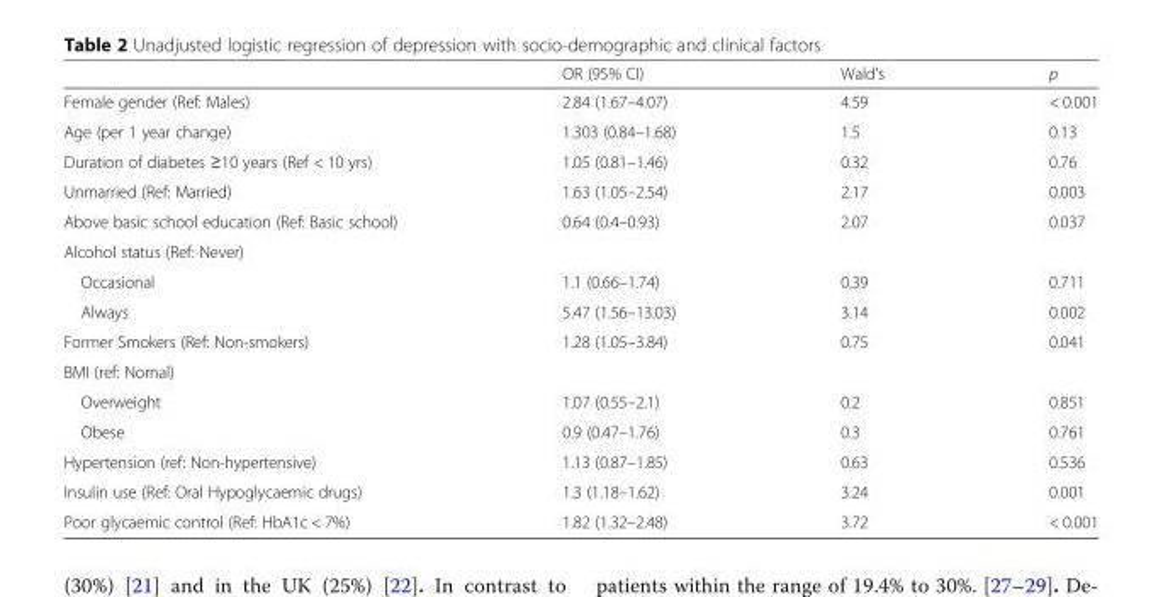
<table><thead><tr><td></td><td>OR (95% CI)</td><td>Wald’s</td><td>p</td></tr></thead><tbody><tr><td>Female gender (Ref: Males)</td><td>2.84 (1.67–4.07)</td><td>4.59</td><td>&lt; 0.001</td></tr><tr><td>Age (per 1 year change)</td><td>1.303 (0.84–1.68)</td><td>1.5</td><td>0.13</td></tr><tr><td>Duration of diabetes ≥10 years (Ref &lt; 10 yrs)</td><td>1.05 (0.81–1.46)</td><td>0.32</td><td>0.76</td></tr><tr><td>Unmarried (Ref: Married)</td><td>1.63 (1.05–2.54)</td><td>2.17</td><td>0.003</td></tr><tr><td>Above basic school education (Ref: Basic school)</td><td>0.64 (0.4–0.93)</td><td>2.07</td><td>0.037</td></tr><tr><td colspan="4">Alcohol status (Ref: Never)</td></tr><tr><td>Occasional</td><td>1.1 (0.66–1.74)</td><td>0.39</td><td>0.711</td></tr><tr><td>Always</td><td>5.47 (1.56–13.03)</td><td>3.14</td><td>0.002</td></tr><tr><td>Former Smokers (Ref: Non-smokers)</td><td>1.28 (1.05–3.84)</td><td>0.75</td><td>0.041</td></tr><tr><td colspan="4">BMI (ref: Nornal)</td></tr><tr><td>Overweight</td><td>1.07 (0.55–2.1)</td><td>0.2</td><td>0.851</td></tr><tr><td>Obese</td><td>0.9 (0.47–1.76)</td><td>0.3</td><td>0.761</td></tr><tr><td>Hypertension (ref: Non-hypertensive)</td><td>1.13 (0.87–1.85)</td><td>0.63</td><td>0.536</td></tr><tr><td>Insulin use (Ref: Oral Hypoglycaemic drugs)</td><td>1.3 (1.18–1.62)</td><td>3.24</td><td>0.001</td></tr><tr><td>Poor glycaemic control (Ref: HbA1c &lt; 7%)</td><td>1.82 (1.32–2.48)</td><td>3.72</td><td>&lt; 0.001</td></tr></tbody></table>